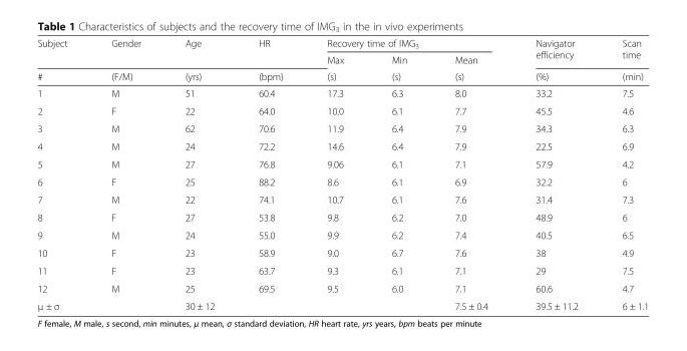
<table><thead><tr><td rowspan="3">Subject #</td><td rowspan="3">Gender (F/M)</td><td rowspan="3">Age (yrs)</td><td rowspan="3">HR (bpm)</td><td colspan="3">Recovery time of IMG<sub>3</sub></td><td rowspan="3">Navigator efficiency (%)</td><td rowspan="3">Scan time (min)</td></tr><tr><td rowspan="2">Max (s)</td><td rowspan="2">Min (s)</td><td rowspan="2">Mean (s)</td></tr><tr></tr></thead><tbody><tr><td>1</td><td>M</td><td>51</td><td>60.4</td><td>17.3</td><td>6.3</td><td>8.0</td><td>33.2</td><td>7.5</td></tr><tr><td>2</td><td>F</td><td>22</td><td>64.0</td><td>10.0</td><td>6.1</td><td>7.7</td><td>45.5</td><td>4.6</td></tr><tr><td>3</td><td>M</td><td>62</td><td>70.6</td><td>11.9</td><td>6.4</td><td>7.9</td><td>34.3</td><td>6.3</td></tr><tr><td>4</td><td>M</td><td>24</td><td>72.2</td><td>14.6</td><td>6.4</td><td>7.9</td><td>22.5</td><td>6.9</td></tr><tr><td>5</td><td>M</td><td>27</td><td>76.8</td><td>9.06</td><td>6.1</td><td>7.1</td><td>57.9</td><td>4.2</td></tr><tr><td>6</td><td>F</td><td>25</td><td>88.2</td><td>8.6</td><td>6.1</td><td>6.9</td><td>32.2</td><td>6</td></tr><tr><td>7</td><td>M</td><td>22</td><td>74.1</td><td>10.7</td><td>6.1</td><td>7.6</td><td>31.4</td><td>7.3</td></tr><tr><td>8</td><td>F</td><td>27</td><td>53.8</td><td>9.8</td><td>6.2</td><td>7.0</td><td>48.9</td><td>6</td></tr><tr><td>9</td><td>M</td><td>24</td><td>55.0</td><td>9.9</td><td>6.2</td><td>7.4</td><td>40.5</td><td>6.5</td></tr><tr><td>10</td><td>F</td><td>23</td><td>58.9</td><td>9.0</td><td>6.7</td><td>7.6</td><td>38</td><td>4.9</td></tr><tr><td>11</td><td>F</td><td>23</td><td>63.7</td><td>9.3</td><td>6.1</td><td>7.1</td><td>29</td><td>7.5</td></tr><tr><td>12</td><td>M</td><td>25</td><td>69.5</td><td>9.5</td><td>6.0</td><td>7.1</td><td>60.6</td><td>4.7</td></tr><tr><td>μ ± σ</td><td></td><td>30 ± 12</td><td></td><td></td><td></td><td>7.5 ± 0.4</td><td>39.5 ± 11.2</td><td>6 ± 1.1</td></tr></tbody></table>